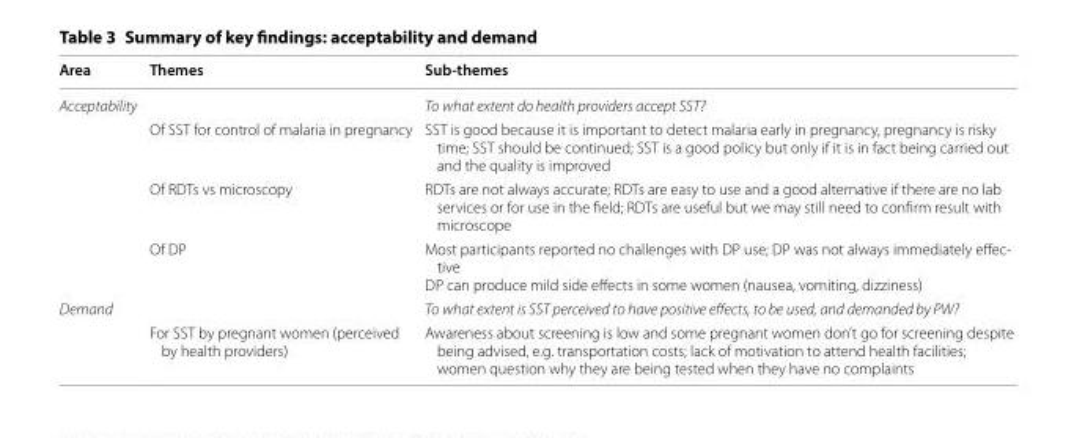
<table><thead><tr><td>Area</td><td>Themes</td><td>Sub-themes</td></tr></thead><tbody><tr><td rowspan="4">Acceptability</td><td></td><td>To what extent do health providers accept SST?</td></tr><tr><td>Of SST for control of malaria in pregnancy</td><td>SST is good because it is important to detect malaria early in pregnancy, pregnancy is risky time; SST should be continued; SST is a good policy but only if it is in fact being carried out and the quality is improved</td></tr><tr><td>Of RDTs vs microscopy</td><td>RDTs are not always accurate; RDTs are easy to use and a good alternative if there are no lab services or for use in the field; RDTs are useful but we may still need to confirm result with microscope</td></tr><tr><td>Of DP</td><td>Most participants reported no challenges with DP use; DP was not always immediately effec- tive DP can produce mild side effects in some women (nausea, vomiting, dizziness)</td></tr><tr><td rowspan="2">Demand</td><td></td><td>To what extent is SST perceived to have positive effects, to be used, and demanded by PW?</td></tr><tr><td>For SST by pregnant women (perceived by health providers)</td><td>Awareness about screening is low and some pregnant women don’t go for screening despite being advised, e.g. transportation costs; lack of motivation to attend health facilities; women question why they are being tested when they have no complaints</td></tr></tbody></table>